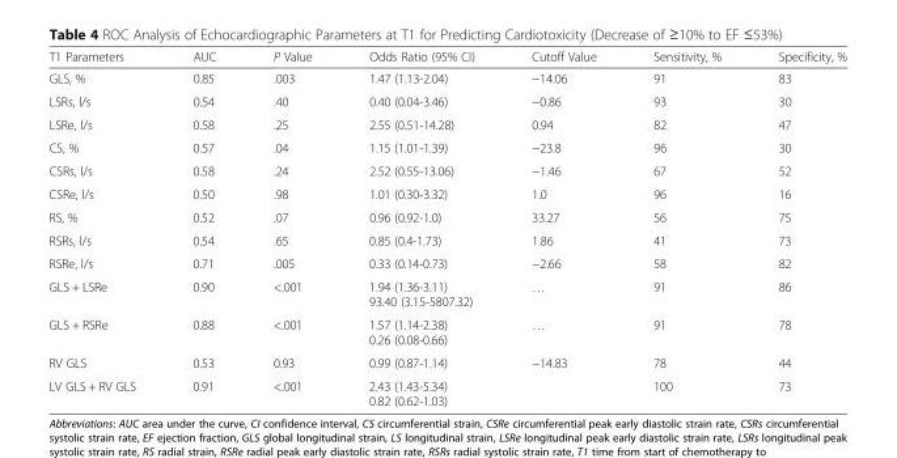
<table><thead><tr><td>T1 Parameters</td><td>AUC</td><td>P Value</td><td>Odds Ratio (95% CI)</td><td>Cutoff Value</td><td>Sensitivity, %</td><td>Specificity, %</td></tr></thead><tbody><tr><td>GLS, %</td><td>0.85</td><td>.003</td><td>1.47 (1.13-2.04)</td><td>−14.06</td><td>91</td><td>83</td></tr><tr><td>LSRs, l/s</td><td>0.54</td><td>.40</td><td>0.40 (0.04-3.46)</td><td>−0.86</td><td>93</td><td>30</td></tr><tr><td>LSRe, l/s</td><td>0.58</td><td>.25</td><td>2.55 (0.51-14.28)</td><td>0.94</td><td>82</td><td>47</td></tr><tr><td>CS, %</td><td>0.57</td><td>.04</td><td>1.15 (1.01-1.39)</td><td>−23.8</td><td>96</td><td>30</td></tr><tr><td>CSRs, l/s</td><td>0.58</td><td>.24</td><td>2.52 (0.55-13.06)</td><td>−1.46</td><td>67</td><td>52</td></tr><tr><td>CSRe, l/s</td><td>0.50</td><td>.98</td><td>1.01 (0.30-3.32)</td><td>1.0</td><td>96</td><td>16</td></tr><tr><td>RS, %</td><td>0.52</td><td>.07</td><td>0.96 (0.92-1.0)</td><td>33.27</td><td>56</td><td>75</td></tr><tr><td>RSRs, l/s</td><td>0.54</td><td>.65</td><td>0.85 (0.4-1.73)</td><td>1.86</td><td>41</td><td>73</td></tr><tr><td>RSRe, l/s</td><td>0.71</td><td>.005</td><td>0.33 (0.14-0.73)</td><td>−2.66</td><td>58</td><td>82</td></tr><tr><td>GLS + LSRe</td><td>0.90</td><td>&lt;.001</td><td>1.94 (1.36-3.11) 93.40 (3.15-5807.32)</td><td>…</td><td>91</td><td>86</td></tr><tr><td>GLS + RSRe</td><td>0.88</td><td>&lt;.001</td><td>1.57 (1.14-2.38) 0.26 (0.08-0.66)</td><td>…</td><td>91</td><td>78</td></tr><tr><td>RV GLS</td><td>0.53</td><td>0.93</td><td>0.99 (0.87-1.14)</td><td rowspan="2">−14.83</td><td>78</td><td>44</td></tr><tr><td>LV GLS + RV GLS</td><td>0.91</td><td>&lt;.001</td><td>2.43 (1.43-5.34) 0.82 (0.62-1.03)</td><td>100</td><td>73</td></tr></tbody></table>